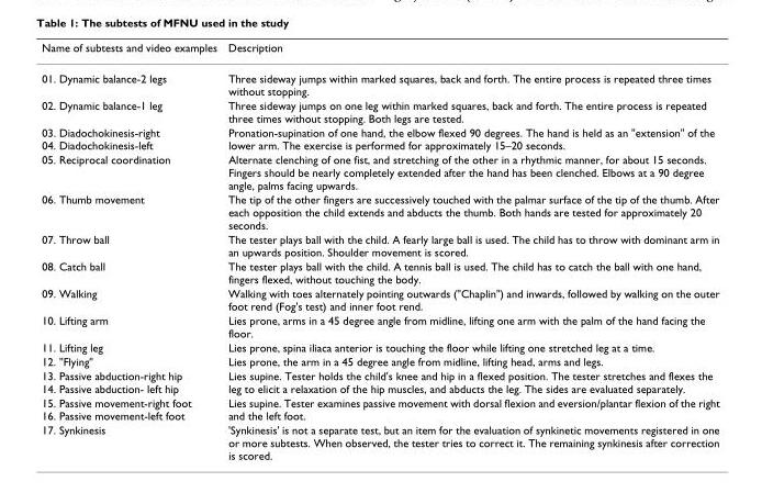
<table><thead><tr><td>Name of subtests and video examples</td><td>Description</td></tr></thead><tbody><tr><td>01. Dynamic balance-2 legs</td><td>Three sideway jumps within marked squares, back and forth. The entire process is repeated three times without stopping.</td></tr><tr><td>02. Dynamic balance-1 leg</td><td>Three sideway jumps on one leg within marked squares, back and forth. The entire process is repeated three times without stopping. Both legs are tested.</td></tr><tr><td>03. Diadochokinesis-right 04. Diadochokinesis-left</td><td>Pronation-supination of one hand, the elbow flexed 90 degrees. The hand is held as an &quot;extension&quot; of the lower arm. The exercise is performed for approximately 15–20 seconds.</td></tr><tr><td>05. Reciprocal coordination</td><td>Alternate clenching of one fist, and stretching of the other in a rhythmic manner, for about 15 seconds. Fingers should be nearly completely extended after the hand has been clenched. Elbows at a 90 degree angle, palms facing upwards.</td></tr><tr><td>06. Thumb movement</td><td>The tip of the other fingers are successively touched with the palmar surface of the tip of the thumb. After each opposition the child extends and abducts the thumb. Both hands are tested for approximately 20 seconds.</td></tr><tr><td>07. Throw ball</td><td>The tester plays ball with the child. A fearly large ball is used. The child has to throw with dominant arm in an upwards position. Shoulder movement is scored.</td></tr><tr><td>08. Catch ball</td><td>The tester plays ball with the child. A tennis ball is used. The child has to catch the ball with one hand, fingers flexed, without touching the body.</td></tr><tr><td>09. Walking</td><td>Walking with toes alternately pointing outwards (&quot;Chaplin&quot;) and inwards, followed by walking on the outer foot rend (Fog&#x27;s test) and inner foot rend.</td></tr><tr><td>10. Lifting arm</td><td>Lies prone, arms in a 45 degree angle from midline, lifting one arm with the palm of the hand facing the floor.</td></tr><tr><td>11. Lifting leg</td><td>Lies prone, spina iliaca anterior is touching the floor while lifting one stretched leg at a time.</td></tr><tr><td>12. &quot;Flying&quot;</td><td>Lies prone, the arm in a 45 degree angle from midline, lifting head, arms and legs.</td></tr><tr><td>13. Passive abduction-right hip 14. Passive abduction- left hip</td><td>Lies supine. Tester holds the child&#x27;s knee and hip in a flexed position. The tester stretches and flexes the leg to elicit a relaxation of the hip muscles, and abducts the leg. The sides are evaluated separately.</td></tr><tr><td>15. Passive movement-right foot 16. Passive movement-left foot</td><td>Lies supine. Tester examines passive movement with dorsal flexion and eversion/plantar flexion of the right and the left foot.</td></tr><tr><td>17. Synkinesis</td><td>&#x27;Synkinesis&#x27; is not a separate test, but an item for the evaluation of synkinetic movements registered in one or more subtests. When observed, the tester tries to correct it. The remaining synkinesis after correction is scored.</td></tr></tbody></table>